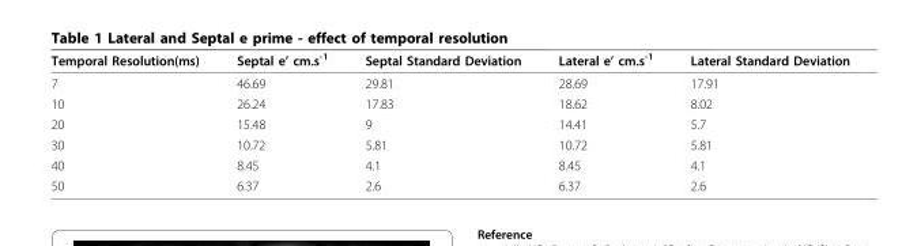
<table><thead><tr><td>Temporal Resolution(ms)</td><td>Septal e’ cm.s<sup>-1</sup></td><td>Septal Standard Deviation</td><td>Lateral e’ cm.s<sup>-1</sup></td><td>Lateral Standard Deviation</td></tr></thead><tbody><tr><td>7</td><td>46.69</td><td>29.81</td><td>28.69</td><td>17.91</td></tr><tr><td>10</td><td>26.24</td><td>17.83</td><td>18.62</td><td>8.02</td></tr><tr><td>20</td><td>15.48</td><td>9</td><td>14.41</td><td>5.7</td></tr><tr><td>30</td><td>10.72</td><td>5.81</td><td>10.72</td><td>5.81</td></tr><tr><td>40</td><td>8.45</td><td>4.1</td><td>8.45</td><td>4.1</td></tr><tr><td>50</td><td>6.37</td><td>2.6</td><td>6.37</td><td>2.6</td></tr></tbody></table>